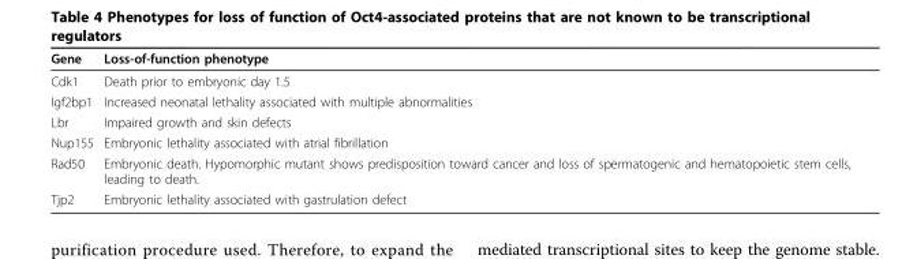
<table><thead><tr><td>Gene</td><td>Loss-of-function phenotype</td></tr></thead><tbody><tr><td>Cdk1</td><td>Death prior to embryonic day 1.5</td></tr><tr><td>Igf2bp1</td><td>Increased neonatal lethality associated with multiple abnormalities</td></tr><tr><td>Lbr</td><td>Impaired growth and skin defects</td></tr><tr><td>Nup155</td><td>Embryonic lethality associated with atrial fibrillation</td></tr><tr><td>Rad50</td><td>Embryonic death. Hypomorphic mutant shows predisposition toward cancer and loss of spermatogenic and hematopoietic stem cells, leading to death.</td></tr><tr><td>Tjp2</td><td>Embryonic lethality associated with gastrulation defect</td></tr></tbody></table>